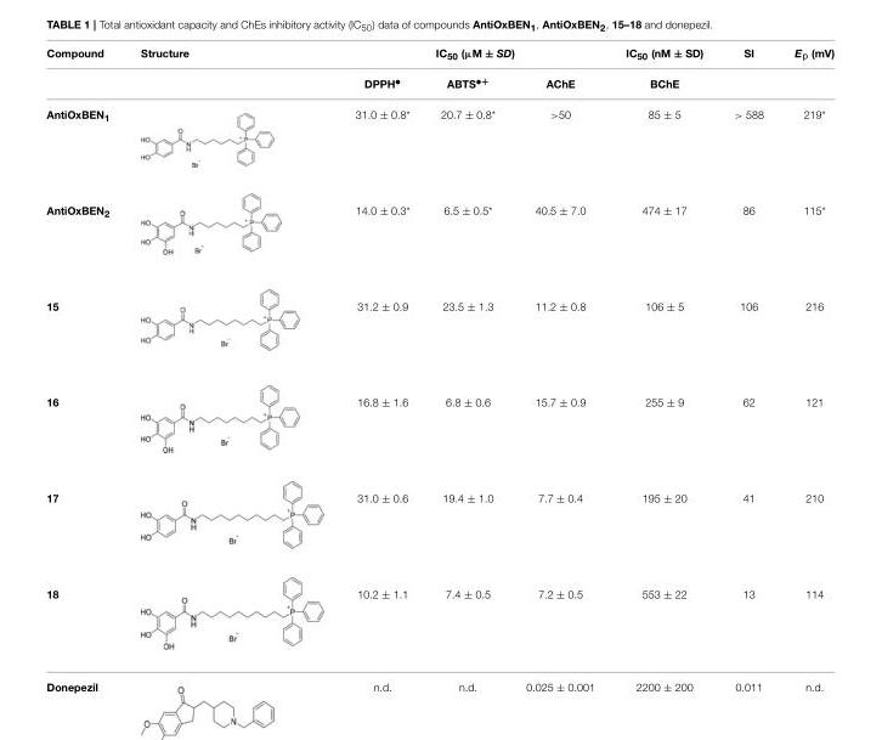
<table><thead><tr><td rowspan="2">Compound</td><td rowspan="2">Structure</td><td colspan="3">IC<sub>50</sub> (µM ± SD)</td><td rowspan="2">IC<sub>50</sub> (nM ± SD) BChE</td><td rowspan="2">SI</td><td rowspan="2">E<sub>p</sub> (mV)</td></tr><tr><td>DPPH<sup>•</sup></td><td>ABTS<sup>•+</sup></td><td>AChE</td></tr></thead><tbody><tr><td>AntiOxBEN<sub>1</sub></td><td></td><td>31.0 ± 0.8*</td><td>20.7 ± 0.8*</td><td>&gt;50</td><td>85 ± 5</td><td>&gt; 588</td><td>219*</td></tr><tr><td>AntiOxBEN<sub>2</sub></td><td></td><td>14.0 ± 0.3*</td><td>6.5 ± 0.5*</td><td>40.5 ± 7.0</td><td>474 ± 17</td><td>86</td><td>115*</td></tr><tr><td>15</td><td></td><td>31.2 ± 0.9</td><td>23.5 ± 1.3</td><td>11.2 ± 0.8</td><td>106 ± 5</td><td>106</td><td>216</td></tr><tr><td>16</td><td></td><td>16.8 ± 1.6</td><td>6.8 ± 0.6</td><td>15.7 ± 0.9</td><td>255 ± 9</td><td>62</td><td>121</td></tr><tr><td>17</td><td></td><td>31.0 ± 0.6</td><td>19.4 ± 1.0</td><td>7.7 ± 0.4</td><td>195 ± 20</td><td>41</td><td>210</td></tr><tr><td>18</td><td></td><td>10.2 ± 1.1</td><td>7.4 ± 0.5</td><td>7.2 ± 0.5</td><td>553 ± 22</td><td>13</td><td>114</td></tr><tr><td>Donepezil</td><td></td><td>n.d.</td><td>n.d.</td><td>0.025 ± 0.001</td><td>2200 ± 200</td><td>0.011</td><td>n.d.</td></tr></tbody></table>